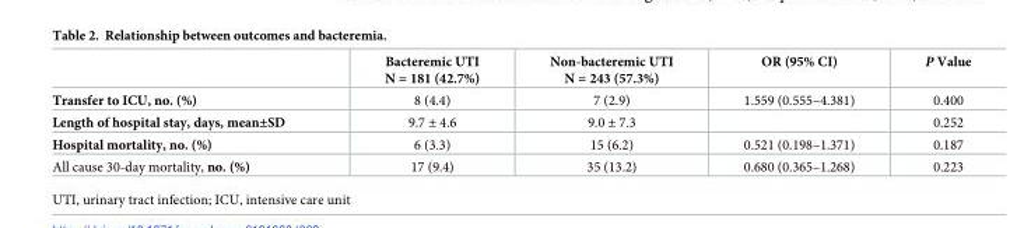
<table><thead><tr><td></td><td>Bacteremic UTI N = 181 (42.7%)</td><td>Non-bacteremic UTI N = 243 (57.3%)</td><td>OR (95% CI)</td><td>P Value</td></tr></thead><tbody><tr><td>Transfer to ICU, no. (%)</td><td>8 (4.4)</td><td>7 (2.9)</td><td>1.559 (0.555–4.381)</td><td>0.400</td></tr><tr><td>Length of hospital stay, days, mean±SD</td><td>9.7 ± 4.6</td><td>9.0 ± 7.3</td><td></td><td>0.252</td></tr><tr><td>Hospital mortality, no. (%)</td><td>6 (3.3)</td><td>15 (6.2)</td><td>0.521 (0.198–1.371)</td><td>0.187</td></tr><tr><td>All cause 30-day mortality, no. (%)</td><td>17 (9.4)</td><td>35 (13.2)</td><td>0.680 (0.365–1.268)</td><td>0.223</td></tr></tbody></table>